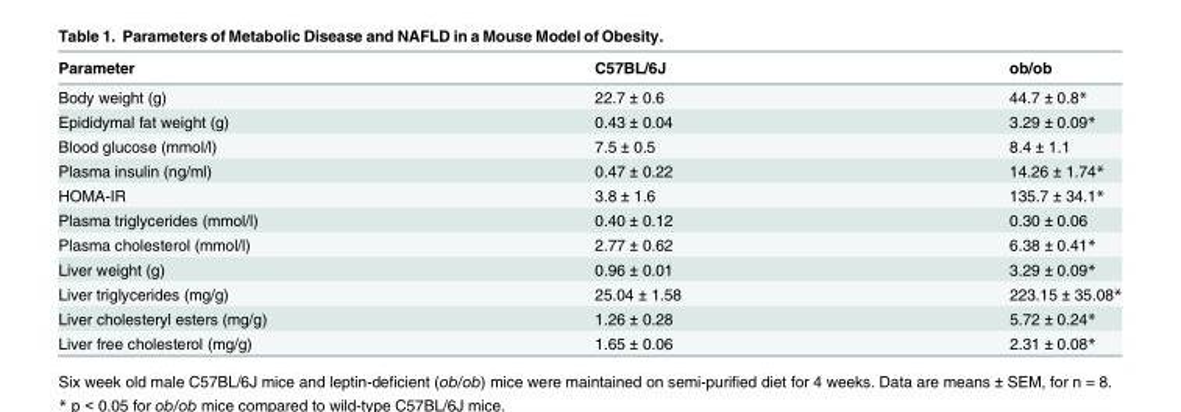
<table><thead><tr><td>Parameter</td><td>C57BL/6J</td><td>ob/ob</td></tr></thead><tbody><tr><td>Body weight (g)</td><td>22.7 ± 0.6</td><td>44.7 ± 0.8*</td></tr><tr><td>Epididymal fat weight (g)</td><td>0.43 ± 0.04</td><td>3.29 ± 0.09*</td></tr><tr><td>Blood glucose (mmol/l)</td><td>7.5 ± 0.5</td><td>8.4 ± 1.1</td></tr><tr><td>Plasma insulin (ng/ml)</td><td>0.47 ± 0.22</td><td>14.26 ± 1.74*</td></tr><tr><td>HOMA-IR</td><td>3.8 ± 1.6</td><td>135.7 ± 34.1*</td></tr><tr><td>Plasma triglycerides (mmol/l)</td><td>0.40 ± 0.12</td><td>0.30 ± 0.06</td></tr><tr><td>Plasma cholesterol (mmol/l)</td><td>2.77 ± 0.62</td><td>6.38 ± 0.41*</td></tr><tr><td>Liver weight (g)</td><td>0.96 ± 0.01</td><td>3.29 ± 0.09*</td></tr><tr><td>Liver triglycerides (mg/g)</td><td>25.04 ± 1.58</td><td>223.15 ± 35.08*</td></tr><tr><td>Liver cholesteryl esters (mg/g)</td><td>1.26 ± 0.28</td><td>5.72 ± 0.24*</td></tr><tr><td>Liver free cholesterol (mg/g)</td><td>1.65 ± 0.06</td><td>2.31 ± 0.08*</td></tr></tbody></table>